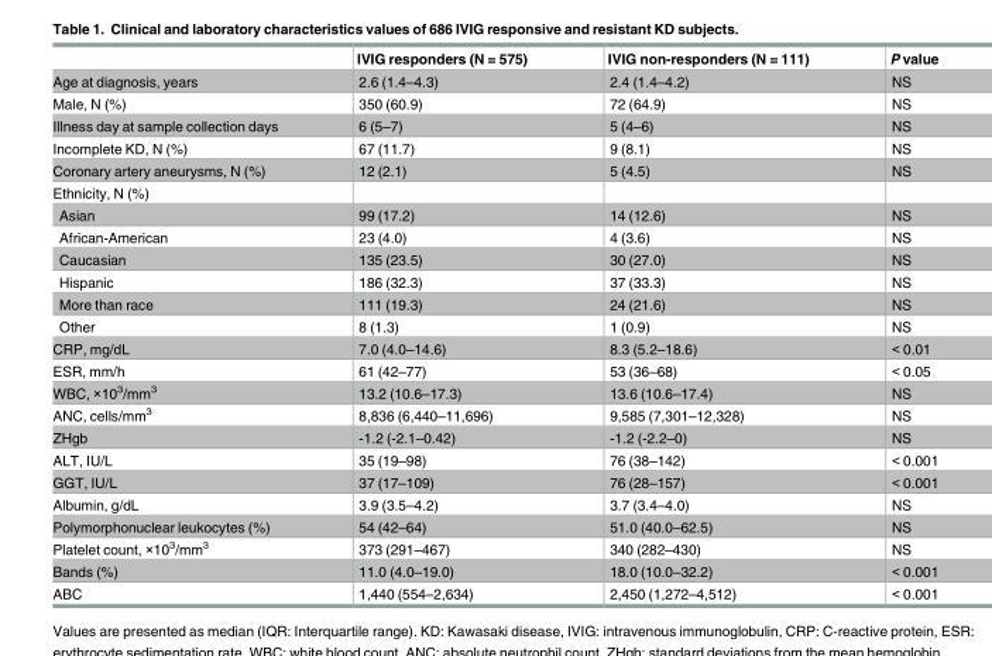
<table><thead><tr><td></td><td>IVIG responders (N = 575)</td><td>IVIG non-responders (N = 111)</td><td>P value</td></tr></thead><tbody><tr><td>Age at diagnosis, years</td><td>2.6 (1.4–4.3)</td><td>2.4 (1.4–4.2)</td><td>NS</td></tr><tr><td>Male, N (%)</td><td>350 (60.9)</td><td>72 (64.9)</td><td>NS</td></tr><tr><td>Illness day at sample collection days</td><td>6 (5–7)</td><td>5 (4–6)</td><td>NS</td></tr><tr><td>Incomplete KD, N (%)</td><td>67 (11.7)</td><td>9 (8.1)</td><td>NS</td></tr><tr><td>Coronary artery aneurysms, N (%)</td><td>12 (2.1)</td><td>5 (4.5)</td><td>NS</td></tr><tr><td colspan="4">Ethnicity, N (%)</td></tr><tr><td>Asian</td><td>99 (17.2)</td><td>14 (12.6)</td><td>NS</td></tr><tr><td>African-American</td><td>23 (4.0)</td><td>4 (3.6)</td><td>NS</td></tr><tr><td>Caucasian</td><td>135 (23.5)</td><td>30 (27.0)</td><td>NS</td></tr><tr><td>Hispanic</td><td>186 (32.3)</td><td>37 (33.3)</td><td>NS</td></tr><tr><td>More than race</td><td>111 (19.3)</td><td>24 (21.6)</td><td>NS</td></tr><tr><td>Other</td><td>8 (1.3)</td><td>1 (0.9)</td><td>NS</td></tr><tr><td>CRP, mg/dL</td><td>7.0 (4.0–14.6)</td><td>8.3 (5.2–18.6)</td><td>&lt; 0.01</td></tr><tr><td>ESR, mm/h</td><td>61 (42–77)</td><td>53 (36–68)</td><td>&lt; 0.05</td></tr><tr><td>WBC, ×10<sup>3</sup>/mm<sup>3</sup></td><td>13.2 (10.6–17.3)</td><td>13.6 (10.6–17.4)</td><td>NS</td></tr><tr><td>ANC, cells/mm<sup>3</sup></td><td>8,836 (6,440–11,696)</td><td>9,585 (7,301–12,328)</td><td>NS</td></tr><tr><td>ZHgb</td><td>-1.2 (-2.1–0.42)</td><td>-1.2 (-2.2–0)</td><td>NS</td></tr><tr><td>ALT, IU/L</td><td>35 (19–98)</td><td>76 (38–142)</td><td>&lt; 0.001</td></tr><tr><td>GGT, IU/L</td><td>37 (17–109)</td><td>76 (28–157)</td><td>&lt; 0.001</td></tr><tr><td>Albumin, g/dL</td><td>3.9 (3.5–4.2)</td><td>3.7 (3.4–4.0)</td><td>NS</td></tr><tr><td>Polymorphonuclear leukocytes (%)</td><td>54 (42–64)</td><td>51.0 (40.0–62.5)</td><td>NS</td></tr><tr><td>Platelet count, ×10<sup>3</sup>/mm<sup>3</sup></td><td>373 (291–467)</td><td>340 (282–430)</td><td>NS</td></tr><tr><td>Bands (%)</td><td>11.0 (4.0–19.0)</td><td>18.0 (10.0–32.2)</td><td>&lt; 0.001</td></tr><tr><td>ABC</td><td>1,440 (554–2,634)</td><td>2,450 (1,272–4,512)</td><td>&lt; 0.001</td></tr></tbody></table>